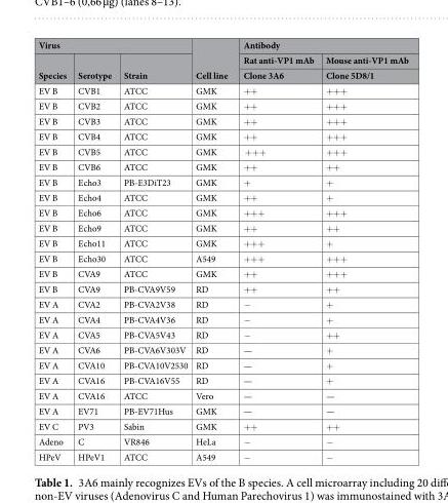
<table><thead><tr><td colspan="3">Virus</td><td rowspan="3">Cell line</td><td colspan="2">Antibody</td></tr><tr><td rowspan="2">Species</td><td rowspan="2">Serotype</td><td rowspan="2">Strain</td><td rowspan="2">Rat anti-VP1 mAb Clone 3A6</td><td rowspan="2">Mouse anti-VP1 mAb Clone 5D8/1</td></tr><tr></tr></thead><tbody><tr><td>EV B</td><td>CVB1</td><td>ATCC</td><td>GMK</td><td>++</td><td>+++</td></tr><tr><td>EV B</td><td>CVB2</td><td>ATCC</td><td>GMK</td><td>++</td><td>+++</td></tr><tr><td>EV B</td><td>CVB3</td><td>ATCC</td><td>GMK</td><td>++</td><td>+++</td></tr><tr><td>EV B</td><td>CVB4</td><td>ATCC</td><td>GMK</td><td>++</td><td>+++</td></tr><tr><td>EV B</td><td>CVB5</td><td>ATCC</td><td>GMK</td><td>+++</td><td>+++</td></tr><tr><td>EV B</td><td>CVB6</td><td>ATCC</td><td>GMK</td><td>++</td><td>++</td></tr><tr><td>EV B</td><td>Echo3</td><td>PB-E3DiT23</td><td>GMK</td><td>+</td><td>+</td></tr><tr><td>EV B</td><td>Echo4</td><td>ATCC</td><td>GMK</td><td>++</td><td>+</td></tr><tr><td>EV B</td><td>Echo6</td><td>ATCC</td><td>GMK</td><td>+++</td><td>+++</td></tr><tr><td>EV B</td><td>Echo9</td><td>ATCC</td><td>GMK</td><td>++</td><td>++</td></tr><tr><td>EV B</td><td>Echo11</td><td>ATCC</td><td>GMK</td><td>+++</td><td>+</td></tr><tr><td>EV B</td><td>Echo30</td><td>ATCC</td><td>A549</td><td>+++</td><td>+++</td></tr><tr><td>EV B</td><td>CVA9</td><td>ATCC</td><td>GMK</td><td>++</td><td>+++</td></tr><tr><td>EV B</td><td>CVA9</td><td>PB-CVA9V59</td><td>RD</td><td>++</td><td>++</td></tr><tr><td>EV A</td><td>CVA2</td><td>PB-CVA2V38</td><td>RD</td><td>−</td><td>+</td></tr><tr><td>EV A</td><td>CVA4</td><td>PB-CVA4V36</td><td>RD</td><td>−</td><td>+</td></tr><tr><td>EV A</td><td>CVA5</td><td>PB-CVA5V43</td><td>RD</td><td>−</td><td>++</td></tr><tr><td>EV A</td><td>CVA6</td><td>PB-CVA6V303V</td><td>RD</td><td>—</td><td>+</td></tr><tr><td>EV A</td><td>CVA10</td><td>PB-CVA10V2530</td><td>RD</td><td>—</td><td>+</td></tr><tr><td>EV A</td><td>CVA16</td><td>PB-CVA16V55</td><td>RD</td><td>—</td><td>+</td></tr><tr><td>EV A</td><td>CVA16</td><td>ATCC</td><td>Vero</td><td>—</td><td>—</td></tr><tr><td>EV A</td><td>EV71</td><td>PB-EV71Hus</td><td>GMK</td><td>—</td><td>—</td></tr><tr><td>EV C</td><td>PV3</td><td>Sabin</td><td>GMK</td><td>++</td><td>++</td></tr><tr><td>Adeno</td><td>C</td><td>VR846</td><td>HeLa</td><td>−</td><td>−</td></tr><tr><td>HPeV</td><td>HPeV1</td><td>ATCC</td><td>A549</td><td>−</td><td>−</td></tr></tbody></table>